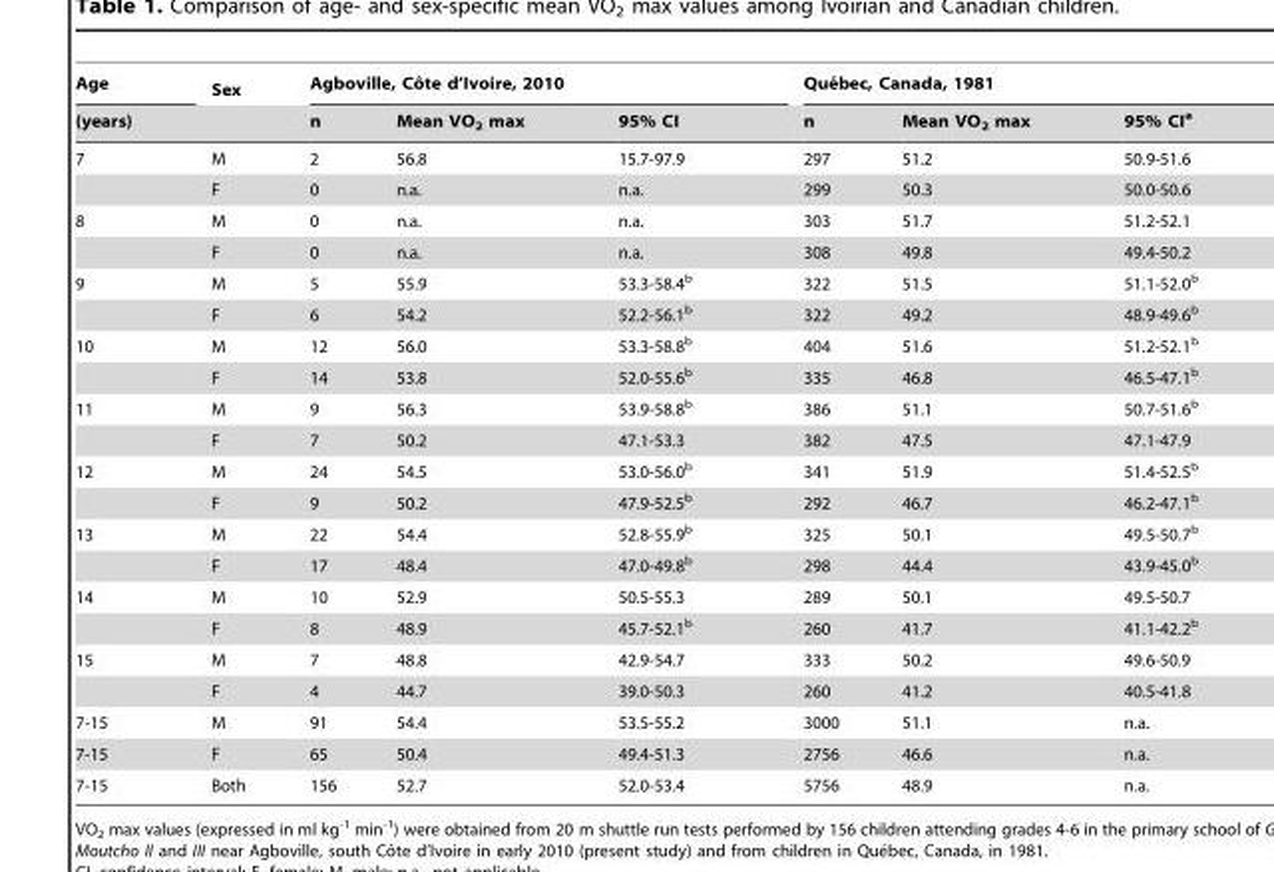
<table><thead><tr><td rowspan="2">Age (years)</td><td rowspan="2">Sex</td><td colspan="3">Agboville, Coˆ te d’Ivoire, 2010</td><td colspan="3">Que´bec, Canada, 1981</td></tr><tr><td>n</td><td>Mean VO<sub>2</sub> max</td><td>95% CI</td><td>n</td><td>Mean VO<sub>2</sub> max</td><td>95% CI<sup>a</sup></td></tr></thead><tbody><tr><td rowspan="2">7</td><td>M</td><td>2</td><td>56.8</td><td>15.7-97.9</td><td>297</td><td>51.2</td><td>50.9-51.6</td></tr><tr><td>F</td><td>0</td><td>n.a.</td><td>n.a.</td><td>299</td><td>50.3</td><td>50.0-50.6</td></tr><tr><td rowspan="2">8</td><td>M</td><td>0</td><td>n.a.</td><td>n.a.</td><td>303</td><td>51.7</td><td>51.2-52.1</td></tr><tr><td>F</td><td>0</td><td>n.a.</td><td>n.a.</td><td>308</td><td>49.8</td><td>49.4-50.2</td></tr><tr><td rowspan="2">9</td><td>M</td><td>5</td><td>55.9</td><td>53.3-58.4<sup>b</sup></td><td>322</td><td>51.5</td><td>51.1-52.0<sup>b</sup></td></tr><tr><td>F</td><td>6</td><td>54.2</td><td>52.2-56.1<sup>b</sup></td><td>322</td><td>49.2</td><td>48.9-49.6<sup>b</sup></td></tr><tr><td rowspan="2">10</td><td>M</td><td>12</td><td>56.0</td><td>53.3-58.8<sup>b</sup></td><td>404</td><td>51.6</td><td>51.2-52.1<sup>b</sup></td></tr><tr><td>F</td><td>14</td><td>53.8</td><td>52.0-55.6<sup>b</sup></td><td>335</td><td>46.8</td><td>46.5-47.1<sup>b</sup></td></tr><tr><td rowspan="2">11</td><td>M</td><td>9</td><td>56.3</td><td>53.9-58.8<sup>b</sup></td><td>386</td><td>51.1</td><td>50.7-51.6<sup>b</sup></td></tr><tr><td>F</td><td>7</td><td>50.2</td><td>47.1-53.3</td><td>382</td><td>47.5</td><td>47.1-47.9</td></tr><tr><td rowspan="2">12</td><td>M</td><td>24</td><td>54.5</td><td>53.0-56.0<sup>b</sup></td><td>341</td><td>51.9</td><td>51.4-52.5<sup>b</sup></td></tr><tr><td>F</td><td>9</td><td>50.2</td><td>47.9-52.5<sup>b</sup></td><td>292</td><td>46.7</td><td>46.2-47.1<sup>b</sup></td></tr><tr><td rowspan="2">13</td><td>M</td><td>22</td><td>54.4</td><td>52.8-55.9<sup>b</sup></td><td>325</td><td>50.1</td><td>49.5-50.7<sup>b</sup></td></tr><tr><td>F</td><td>17</td><td>48.4</td><td>47.0-49.8<sup>b</sup></td><td>298</td><td>44.4</td><td>43.9-45.0<sup>b</sup></td></tr><tr><td rowspan="2">14</td><td>M</td><td>10</td><td>52.9</td><td>50.5-55.3</td><td>289</td><td>50.1</td><td>49.5-50.7</td></tr><tr><td>F</td><td>8</td><td>48.9</td><td>45.7-52.1<sup>b</sup></td><td>260</td><td>41.7</td><td>41.1-42.2<sup>b</sup></td></tr><tr><td rowspan="2">15</td><td>M</td><td>7</td><td>48.8</td><td>42.9-54.7</td><td>333</td><td>50.2</td><td>49.6-50.9</td></tr><tr><td>F</td><td>4</td><td>44.7</td><td>39.0-50.3</td><td>260</td><td>41.2</td><td>40.5-41.8</td></tr><tr><td>7-15</td><td>M</td><td>91</td><td>54.4</td><td>53.5-55.2</td><td>3000</td><td>51.1</td><td>n.a.</td></tr><tr><td>7-15</td><td>F</td><td>65</td><td>50.4</td><td>49.4-51.3</td><td>2756</td><td>46.6</td><td>n.a.</td></tr><tr><td>7-15</td><td>Both</td><td>156</td><td>52.7</td><td>52.0-53.4</td><td>5756</td><td>48.9</td><td>n.a.</td></tr></tbody></table>